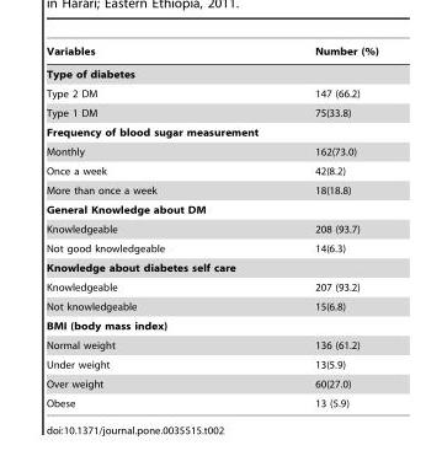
<table><thead><tr><td>Variables</td><td>Number (%)</td></tr></thead><tbody><tr><td colspan="2">Type of diabetes</td></tr><tr><td>Type 2 DM</td><td>147 (66.2)</td></tr><tr><td>Type 1 DM</td><td>75(33.8)</td></tr><tr><td colspan="2">Frequency of blood sugar measurement</td></tr><tr><td>Monthly</td><td>162(73.0)</td></tr><tr><td>Once a week</td><td>42(8.2)</td></tr><tr><td>More than once a week</td><td>18(18.8)</td></tr><tr><td colspan="2">General Knowledge about DM</td></tr><tr><td>Knowledgeable</td><td>208 (93.7)</td></tr><tr><td>Not good knowledgeable</td><td>14(6.3)</td></tr><tr><td colspan="2">Knowledge about diabetes self care</td></tr><tr><td>Knowledgeable</td><td>207 (93.2)</td></tr><tr><td>Not knowledgeable</td><td>15(6.8)</td></tr><tr><td colspan="2">BMI (body mass index)</td></tr><tr><td>Normal weight</td><td>136 (61.2)</td></tr><tr><td>Under weight</td><td>13(5.9)</td></tr><tr><td>Over weight</td><td>60(27.0)</td></tr><tr><td>Obese</td><td>13 (5.9)</td></tr></tbody></table>